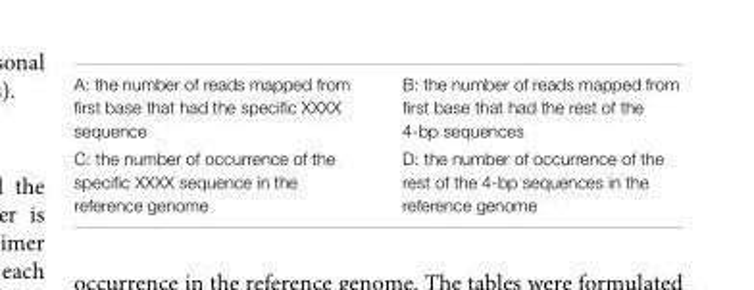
<table><tbody><tr><td>A: the number of reads mapped from first base that had the specific XXXX sequence</td><td>B: the number of reads mapped from first base that had the rest of the 4-bp sequences</td></tr><tr><td>C: the number of occurrence of the specific XXXX sequence in the reference genome</td><td>D: the number of occurrence of the rest of the 4-bp sequences in the reference genome</td></tr></tbody></table>